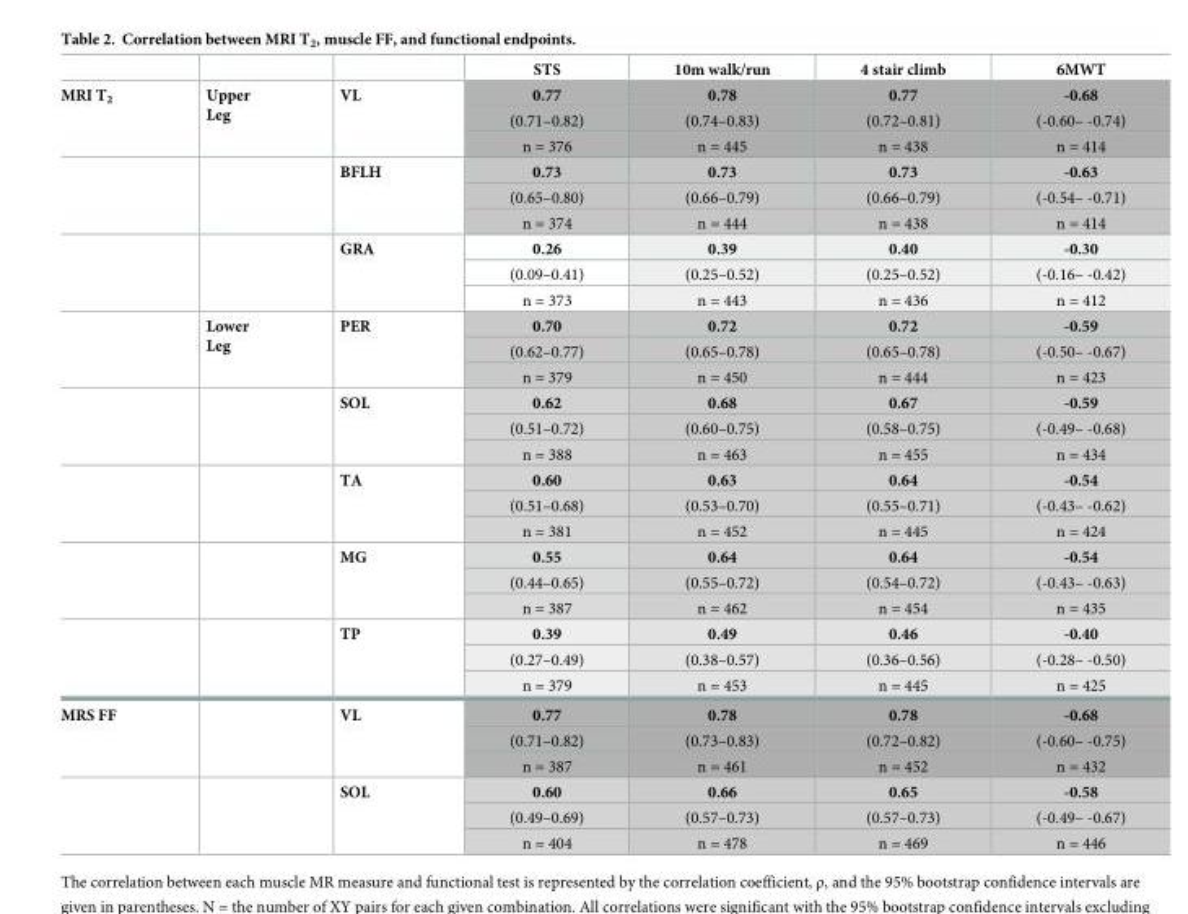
<table><thead><tr><td></td><td></td><td></td><td>STS</td><td>10m walk/run</td><td>4 stair climb</td><td>6MWT</td></tr></thead><tbody><tr><td rowspan="24">MRI T<sub>2</sub></td><td rowspan="3">Upper Leg</td><td rowspan="3">VL</td><td>0.77</td><td>0.78</td><td>0.77</td><td>-0.68</td></tr><tr><td>(0.71–0.82)</td><td>(0.74–0.83)</td><td>(0.72–0.81)</td><td>(-0.60– -0.74)</td></tr><tr><td>n = 376</td><td>n = 445</td><td>n = 438</td><td>n = 414</td></tr><tr><td rowspan="3"></td><td rowspan="3">BFLH</td><td>0.73</td><td>0.73</td><td>0.73</td><td>-0.63</td></tr><tr><td>(0.65–0.80)</td><td>(0.66–0.79)</td><td>(0.66–0.79)</td><td>(-0.54– -0.71)</td></tr><tr><td>n = 374</td><td>n = 444</td><td>n = 438</td><td>n = 414</td></tr><tr><td rowspan="3"></td><td rowspan="3">GRA</td><td>0.26</td><td>0.39</td><td>0.40</td><td>-0.30</td></tr><tr><td>(0.09–0.41)</td><td>(0.25–0.52)</td><td>(0.25–0.52)</td><td>(-0.16– -0.42)</td></tr><tr><td>n = 373</td><td>n = 443</td><td>n = 436</td><td>n = 412</td></tr><tr><td rowspan="3">Lower Leg</td><td rowspan="3">PER</td><td>0.70</td><td>0.72</td><td>0.72</td><td>-0.59</td></tr><tr><td>(0.62–0.77)</td><td>(0.65–0.78)</td><td>(0.65–0.78)</td><td>(-0.50– -0.67)</td></tr><tr><td>n = 379</td><td>n = 450</td><td>n = 444</td><td>n = 423</td></tr><tr><td rowspan="3"></td><td rowspan="3">SOL</td><td>0.62</td><td>0.68</td><td>0.67</td><td>-0.59</td></tr><tr><td>(0.51–0.72)</td><td>(0.60–0.75)</td><td>(0.58–0.75)</td><td>(-0.49– -0.68)</td></tr><tr><td>n = 388</td><td>n = 463</td><td>n = 455</td><td>n = 434</td></tr><tr><td rowspan="3"></td><td rowspan="3">TA</td><td>0.60</td><td>0.63</td><td>0.64</td><td>-0.54</td></tr><tr><td>(0.51–0.68)</td><td>(0.53–0.70)</td><td>(0.55–0.71)</td><td>(-0.43– -0.62)</td></tr><tr><td>n = 381</td><td>n = 452</td><td>n = 445</td><td>n = 424</td></tr><tr><td rowspan="3"></td><td rowspan="3">MG</td><td>0.55</td><td>0.64</td><td>0.64</td><td>-0.54</td></tr><tr><td>(0.44–0.65)</td><td>(0.55–0.72)</td><td>(0.54–0.72)</td><td>(-0.43– -0.63)</td></tr><tr><td>n = 387</td><td>n = 462</td><td>n = 454</td><td>n = 435</td></tr><tr><td rowspan="3"></td><td rowspan="3">TP</td><td>0.39</td><td>0.49</td><td>0.46</td><td>-0.40</td></tr><tr><td>(0.27–0.49)</td><td>(0.38–0.57)</td><td>(0.36–0.56)</td><td>(-0.28– -0.50)</td></tr><tr><td>n = 379</td><td>n = 453</td><td>n = 445</td><td>n = 425</td></tr><tr><td rowspan="6">MRS FF</td><td rowspan="3"></td><td rowspan="3">VL</td><td>0.77</td><td>0.78</td><td>0.78</td><td>-0.68</td></tr><tr><td>(0.71–0.82)</td><td>(0.73–0.83)</td><td>(0.72–0.82)</td><td>(-0.60– -0.75)</td></tr><tr><td>n = 387</td><td>n = 461</td><td>n = 452</td><td>n = 432</td></tr><tr><td rowspan="3"></td><td rowspan="3">SOL</td><td>0.60</td><td>0.66</td><td>0.65</td><td>-0.58</td></tr><tr><td>(0.49–0.69)</td><td>(0.57–0.73)</td><td>(0.57–0.73)</td><td>(-0.49– -0.67)</td></tr><tr><td>n = 404</td><td>n = 478</td><td>n = 469</td><td>n = 446</td></tr></tbody></table>